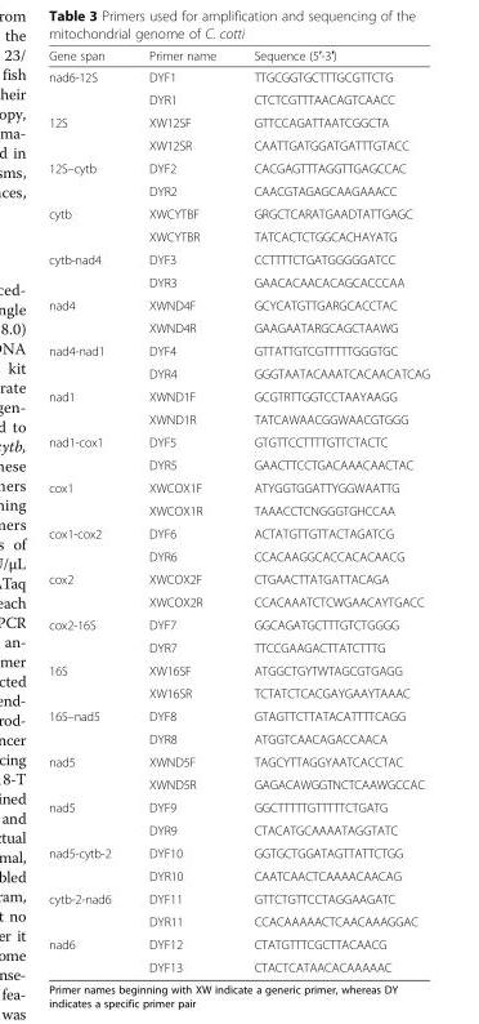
<table><thead><tr><td>Gene span</td><td>Primer name</td><td>Sequence (5′-3′)</td></tr></thead><tbody><tr><td rowspan="2">nad6-12S</td><td>DYF1</td><td>TTGCGGTGCTTTGCGTTCTG</td></tr><tr><td>DYR1</td><td>CTCTCGTTTAACAGTCAACC</td></tr><tr><td rowspan="2">12S</td><td>XW12SF</td><td>GTTCCAGATTAATCGGCTA</td></tr><tr><td>XW12SR</td><td>CAATTGATGGATGATTTGTACC</td></tr><tr><td rowspan="2">12S–cytb</td><td>DYF2</td><td>CACGAGTTTAGGTTGAGCCAC</td></tr><tr><td>DYR2</td><td>CAACGTAGAGCAAGAAACC</td></tr><tr><td rowspan="2">cytb</td><td>XWCYTBF</td><td>GRGCTCARATGAADTATTGAGC</td></tr><tr><td>XWCYTBR</td><td>TATCACTCTGGCACHAYATG</td></tr><tr><td rowspan="2">cytb-nad4</td><td>DYF3</td><td>CCTTTTCTGATGGGGGATCC</td></tr><tr><td>DYR3</td><td>GAACACAACACAGCACCCAA</td></tr><tr><td rowspan="2">nad4</td><td>XWND4F</td><td>GCYCATGTTGARGCACCTAC</td></tr><tr><td>XWND4R</td><td>GAAGAATARGCAGCTAAWG</td></tr><tr><td rowspan="2">nad4-nad1</td><td>DYF4</td><td>GTTATTGTCGTTTTTGGGTGC</td></tr><tr><td>DYR4</td><td>GGGTAATACAAATCACAACATCAG</td></tr><tr><td rowspan="2">nad1</td><td>XWND1F</td><td>GCGTRTTGGTCCTAAYAAGG</td></tr><tr><td>XWND1R</td><td>TATCAWAACGGWAACGTGGG</td></tr><tr><td rowspan="2">nad1-cox1</td><td>DYF5</td><td>GTGTTCCTTTTGTTCTACTC</td></tr><tr><td>DYR5</td><td>GAACTTCCTGACAAACAACTAC</td></tr><tr><td rowspan="2">cox1</td><td>XWCOX1F</td><td>ATYGGTGGATTYGGWAATTG</td></tr><tr><td>XWCOX1R</td><td>TAAACCTCNGGGTGHCCAA</td></tr><tr><td rowspan="2">cox1-cox2</td><td>DYF6</td><td>ACTATGTTGTTACTAGATCG</td></tr><tr><td>DYR6</td><td>CCACAAGGCACCACACAACG</td></tr><tr><td rowspan="2">cox2</td><td>XWCOX2F</td><td>CTGAACTTATGATTACAGA</td></tr><tr><td>XWCOX2R</td><td>CCACAAATCTCWGAACAYTGACC</td></tr><tr><td rowspan="2">cox2-16S</td><td>DYF7</td><td>GGCAGATGCTTTGTCTGGGG</td></tr><tr><td>DYR7</td><td>TTCCGAAGACTTATCTTTG</td></tr><tr><td rowspan="2">16S</td><td>XW16SF</td><td>ATGGCTGYTWTAGCGTGAGG</td></tr><tr><td>XW16SR</td><td>TCTATCTCACGAYGAAYTAAAC</td></tr><tr><td rowspan="2">16S–nad5</td><td>DYF8</td><td>GTAGTTCTTATACATTTTCAGG</td></tr><tr><td>DYR8</td><td>ATGGTCAACAGACCAACA</td></tr><tr><td rowspan="2">nad5</td><td>XWND5F</td><td>TAGCYTTAGGYAATCACCTAC</td></tr><tr><td>XWND5R</td><td>GAGACAWGGTNCTCAAWGCCAC</td></tr><tr><td rowspan="2">nad5</td><td>DYF9</td><td>GGCTTTTTGTTTTTCTGATG</td></tr><tr><td>DYR9</td><td>CTACATGCAAAATAGGTATC</td></tr><tr><td rowspan="2">nad5-cytb-2</td><td>DYF10</td><td>GGTGCTGGATAGTTATTCTGG</td></tr><tr><td>DYR10</td><td>CAATCAACTCAAAACAACAG</td></tr><tr><td rowspan="2">cytb-2-nad6</td><td>DYF11</td><td>GTTCTGTTCCTAGGAAGATC</td></tr><tr><td>DYR11</td><td>CCACAAAAACTCAACAAAGGAC</td></tr><tr><td rowspan="2">nad6</td><td>DYF12</td><td>CTATGTTTCGCTTACAACG</td></tr><tr><td>DYF13</td><td>CTACTCATAACACAAAAAC</td></tr></tbody></table>